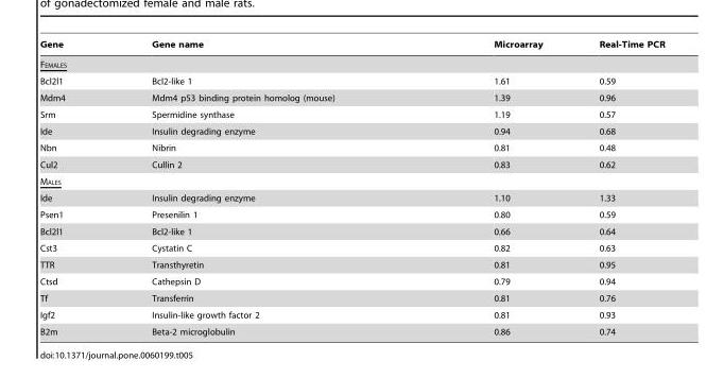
<table><thead><tr><td>Gene</td><td>Gene name</td><td>Microarray</td><td>Real-Time PCR</td></tr></thead><tbody><tr><td colspan="4">FEMALES</td></tr><tr><td>Bcl2l1</td><td>Bcl2-like 1</td><td>1.61</td><td>0.59</td></tr><tr><td>Mdm4</td><td>Mdm4 p53 binding protein homolog (mouse)</td><td>1.39</td><td>0.96</td></tr><tr><td>Srm</td><td>Spermidine synthase</td><td>1.19</td><td>0.57</td></tr><tr><td>Ide</td><td>Insulin degrading enzyme</td><td>0.94</td><td>0.68</td></tr><tr><td>Nbn</td><td>Nibrin</td><td>0.81</td><td>0.48</td></tr><tr><td>Cul2</td><td>Cullin 2</td><td>0.83</td><td>0.62</td></tr><tr><td colspan="4">MALES</td></tr><tr><td>Ide</td><td>Insulin degrading enzyme</td><td>1.10</td><td>1.33</td></tr><tr><td>Psen1</td><td>Presenilin 1</td><td>0.80</td><td>0.59</td></tr><tr><td>Bcl2l1</td><td>Bcl2-like 1</td><td>0.66</td><td>0.64</td></tr><tr><td>Cst3</td><td>Cystatin C</td><td>0.82</td><td>0.63</td></tr><tr><td>TTR</td><td>Transthyretin</td><td>0.81</td><td>0.95</td></tr><tr><td>Ctsd</td><td>Cathepsin D</td><td>0.79</td><td>0.94</td></tr><tr><td>Tf</td><td>Transferrin</td><td>0.81</td><td>0.76</td></tr><tr><td>Igf2</td><td>Insulin-like growth factor 2</td><td>0.81</td><td>0.93</td></tr><tr><td>B2m</td><td>Beta-2 microglobulin</td><td>0.86</td><td>0.74</td></tr></tbody></table>